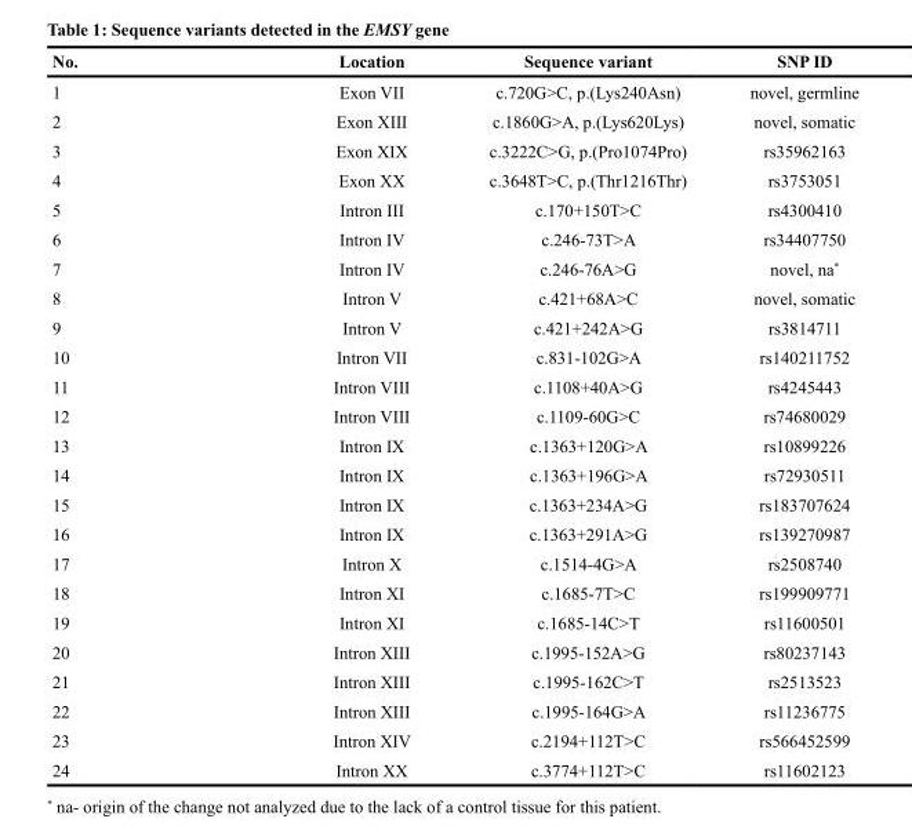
<table><thead><tr><td>No.</td><td>Location</td><td>Sequence variant</td><td>SNP ID</td></tr></thead><tbody><tr><td>1</td><td>Exon VII</td><td>c.720G&gt;C, p.(Lys240Asn)</td><td>novel, germline</td></tr><tr><td>2</td><td>Exon XIII</td><td>c.1860G&gt;A, p.(Lys620Lys)</td><td>novel, somatic</td></tr><tr><td>3</td><td>Exon XIX</td><td>c.3222C&gt;G, p.(Pro1074Pro)</td><td>rs35962163</td></tr><tr><td>4</td><td>Exon XX</td><td>c.3648T&gt;C, p.(Thr1216Thr)</td><td>rs3753051</td></tr><tr><td>5</td><td>Intron III</td><td>c.170+150T&gt;C</td><td>rs4300410</td></tr><tr><td>6</td><td>Intron IV</td><td>c.246-73T&gt;A</td><td>rs34407750</td></tr><tr><td>7</td><td>Intron IV</td><td>c.246-76A&gt;G</td><td>novel, na*</td></tr><tr><td>8</td><td>Intron V</td><td>c.421+68A&gt;C</td><td>novel, somatic</td></tr><tr><td>9</td><td>Intron V</td><td>c.421+242A&gt;G</td><td>rs3814711</td></tr><tr><td>10</td><td>Intron VII</td><td>c.831-102G&gt;A</td><td>rs140211752</td></tr><tr><td>11</td><td>Intron VIII</td><td>c.1108+40A&gt;G</td><td>rs4245443</td></tr><tr><td>12</td><td>Intron VIII</td><td>c.1109-60G&gt;C</td><td>rs74680029</td></tr><tr><td>13</td><td>Intron IX</td><td>c.1363+120G&gt;A</td><td>rs10899226</td></tr><tr><td>14</td><td>Intron IX</td><td>c.1363+196G&gt;A</td><td>rs72930511</td></tr><tr><td>15</td><td>Intron IX</td><td>c.1363+234A&gt;G</td><td>rs183707624</td></tr><tr><td>16</td><td>Intron IX</td><td>c.1363+291A&gt;G</td><td>rs139270987</td></tr><tr><td>17</td><td>Intron X</td><td>c.1514-4G&gt;A</td><td>rs2508740</td></tr><tr><td>18</td><td>Intron XI</td><td>c.1685-7T&gt;C</td><td>rs199909771</td></tr><tr><td>19</td><td>Intron XI</td><td>c.1685-14C&gt;T</td><td>rs11600501</td></tr><tr><td>20</td><td>Intron XIII</td><td>c.1995-152A&gt;G</td><td>rs80237143</td></tr><tr><td>21</td><td>Intron XIII</td><td>c.1995-162C&gt;T</td><td>rs2513523</td></tr><tr><td>22</td><td>Intron XIII</td><td>c.1995-164G&gt;A</td><td>rs11236775</td></tr><tr><td>23</td><td>Intron XIV</td><td>c.2194+112T&gt;C</td><td>rs566452599</td></tr><tr><td>24</td><td>Intron XX</td><td>c.3774+112T&gt;C</td><td>rs11602123</td></tr></tbody></table>